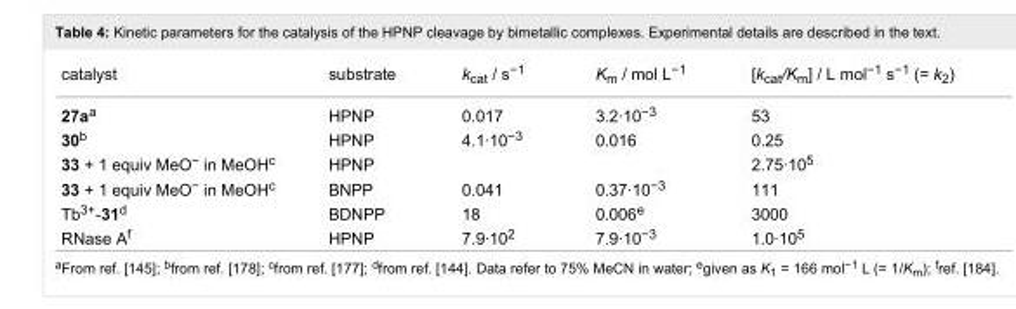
<table><tbody><tr><td>catalyst</td><td>substrate</td><td>k<sub>cat</sub> / s<sup>−1</sup></td><td>K<sub>m</sub> / mol L<sup>−1</sup></td><td>[k<sub>cat</sub>/K<sub>m</sub>] / L mol<sup>−1</sup> s<sup>−1</sup> (= k<sub>2</sub>)</td></tr><tr><td>27a<sup>a</sup></td><td>HPNP</td><td>0.017</td><td>3.2·10<sup>−3</sup></td><td>53</td></tr><tr><td>30<sup>b</sup></td><td>HPNP</td><td>4.1·10<sup>−3</sup></td><td>0.016</td><td>0.25</td></tr><tr><td>33 + 1 equiv MeO<sup>−</sup> in MeOH<sup>c</sup></td><td>HPNP</td><td></td><td></td><td>2.75·10<sup>5</sup></td></tr><tr><td>33 + 1 equiv MeO<sup>−</sup> in MeOH<sup>c</sup></td><td>BNPP</td><td>0.041</td><td>0.37·10<sup>−3</sup></td><td>111</td></tr><tr><td>Tb<sup>3+</sup>-31<sup>d</sup></td><td>BDNPP</td><td>18</td><td>0.006<sup>e</sup></td><td>3000</td></tr><tr><td>RNase A<sup>f</sup></td><td>HPNP</td><td>7.9·10<sup>2</sup></td><td>7.9·10<sup>−3</sup></td><td>1.0·10<sup>5</sup></td></tr></tbody></table>